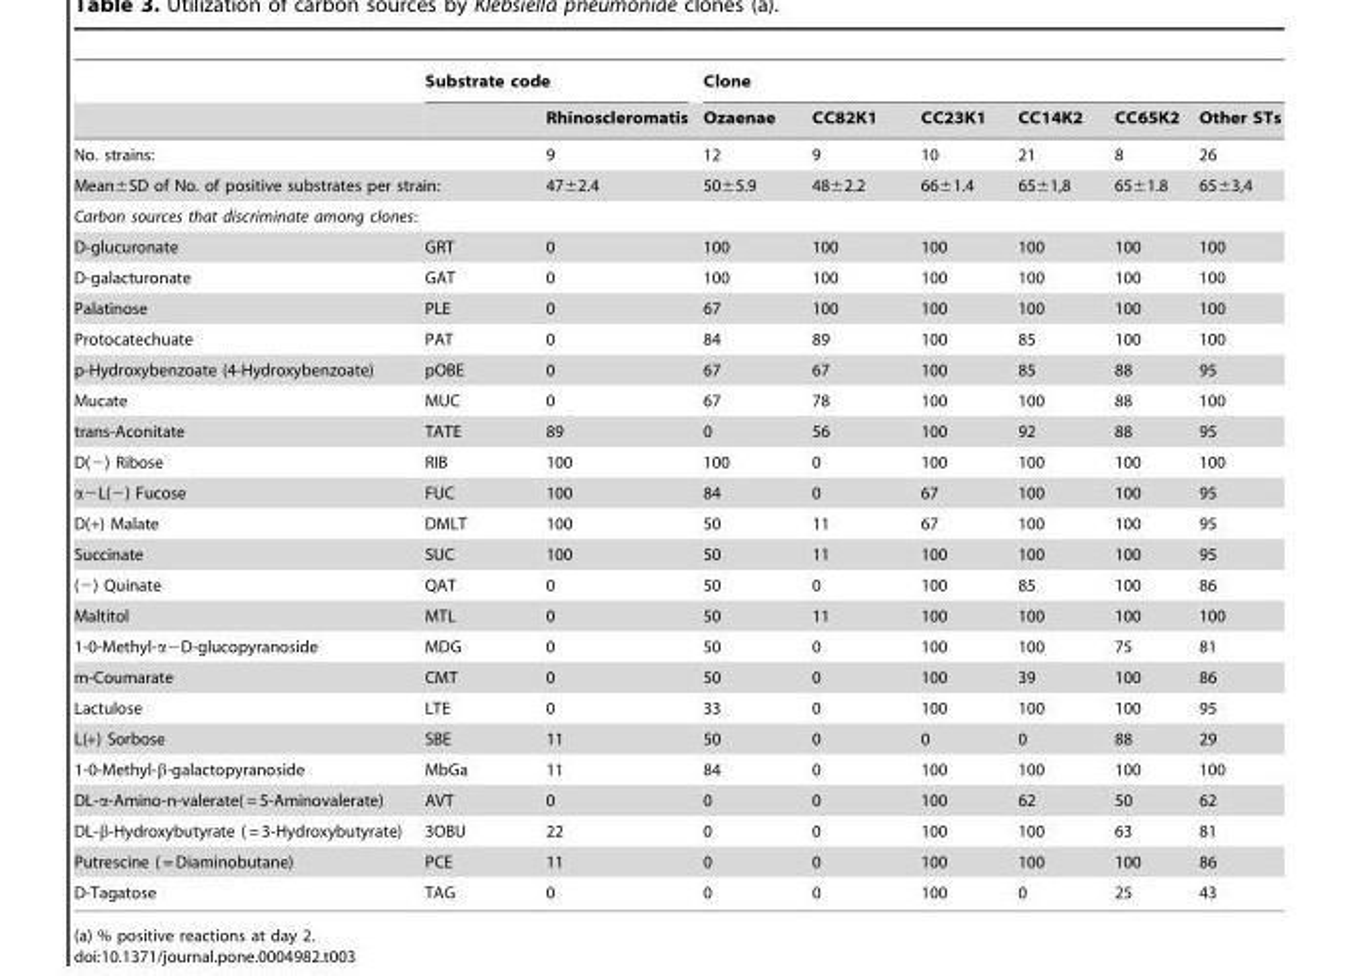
<table><thead><tr><td rowspan="2"></td><td colspan="2">Substrate code</td><td colspan="6">Clone</td></tr><tr><td></td><td>Rhinoscleromatis</td><td>Ozaenae</td><td>CC82K1</td><td>CC23K1</td><td>CC14K2</td><td>CC65K2</td><td>Other STs</td></tr></thead><tbody><tr><td>No. strains:</td><td></td><td>9</td><td>12</td><td>9</td><td>10</td><td>21</td><td>8</td><td>26</td></tr><tr><td colspan="2">Mean±SD of No. of positive substrates per strain:</td><td>47±2.4</td><td>50±5.9</td><td>48±2.2</td><td>66±1.4</td><td>65±1,8</td><td>65±1.8</td><td>65±3,4</td></tr><tr><td colspan="9">Carbon sources that discriminate among clones:</td></tr><tr><td>D-glucuronate</td><td>GRT</td><td>0</td><td>100</td><td>100</td><td>100</td><td>100</td><td>100</td><td>100</td></tr><tr><td>D-galacturonate</td><td>GAT</td><td>0</td><td>100</td><td>100</td><td>100</td><td>100</td><td>100</td><td>100</td></tr><tr><td>Palatinose</td><td>PLE</td><td>0</td><td>67</td><td>100</td><td>100</td><td>100</td><td>100</td><td>100</td></tr><tr><td>Protocatechuate</td><td>PAT</td><td>0</td><td>84</td><td>89</td><td>100</td><td>85</td><td>100</td><td>100</td></tr><tr><td>p-Hydroxybenzoate (4-Hydroxybenzoate)</td><td>pOBE</td><td>0</td><td>67</td><td>67</td><td>100</td><td>85</td><td>88</td><td>95</td></tr><tr><td>Mucate</td><td>MUC</td><td>0</td><td>67</td><td>78</td><td>100</td><td>100</td><td>88</td><td>100</td></tr><tr><td>trans-Aconitate</td><td>TATE</td><td>89</td><td>0</td><td>56</td><td>100</td><td>92</td><td>88</td><td>95</td></tr><tr><td>D(−) Ribose</td><td>RIB</td><td>100</td><td>100</td><td>0</td><td>100</td><td>100</td><td>100</td><td>100</td></tr><tr><td>α−L(−) Fucose</td><td>FUC</td><td>100</td><td>84</td><td>0</td><td>67</td><td>100</td><td>100</td><td>95</td></tr><tr><td>D(+) Malate</td><td>DMLT</td><td>100</td><td>50</td><td>11</td><td>67</td><td>100</td><td>100</td><td>95</td></tr><tr><td>Succinate</td><td>SUC</td><td>100</td><td>50</td><td>11</td><td>100</td><td>100</td><td>100</td><td>95</td></tr><tr><td>(−) Quinate</td><td>QAT</td><td>0</td><td>50</td><td>0</td><td>100</td><td>85</td><td>100</td><td>86</td></tr><tr><td>Maltitol</td><td>MTL</td><td>0</td><td>50</td><td>11</td><td>100</td><td>100</td><td>100</td><td>100</td></tr><tr><td>1-0-Methyl-α−D-glucopyranoside</td><td>MDG</td><td>0</td><td>50</td><td>0</td><td>100</td><td>100</td><td>75</td><td>81</td></tr><tr><td>m-Coumarate</td><td>CMT</td><td>0</td><td>50</td><td>0</td><td>100</td><td>39</td><td>100</td><td>86</td></tr><tr><td>Lactulose</td><td>LTE</td><td>0</td><td>33</td><td>0</td><td>100</td><td>100</td><td>100</td><td>95</td></tr><tr><td>L(+) Sorbose</td><td>SBE</td><td>11</td><td>50</td><td>0</td><td>0</td><td>0</td><td>88</td><td>29</td></tr><tr><td>1-0-Methyl-β-galactopyranoside</td><td>MbGa</td><td>11</td><td>84</td><td>0</td><td>100</td><td>100</td><td>100</td><td>100</td></tr><tr><td>DL-α-Amino-n-valerate( = 5-Aminovalerate)</td><td>AVT</td><td>0</td><td>0</td><td>0</td><td>100</td><td>62</td><td>50</td><td>62</td></tr><tr><td>DL-β-Hydroxybutyrate ( = 3-Hydroxybutyrate)</td><td>3OBU</td><td>22</td><td>0</td><td>0</td><td>100</td><td>100</td><td>63</td><td>81</td></tr><tr><td>Putrescine ( = Diaminobutane)</td><td>PCE</td><td>11</td><td>0</td><td>0</td><td>100</td><td>100</td><td>100</td><td>86</td></tr><tr><td>D-Tagatose</td><td>TAG</td><td>0</td><td>0</td><td>0</td><td>100</td><td>0</td><td>25</td><td>43</td></tr></tbody></table>